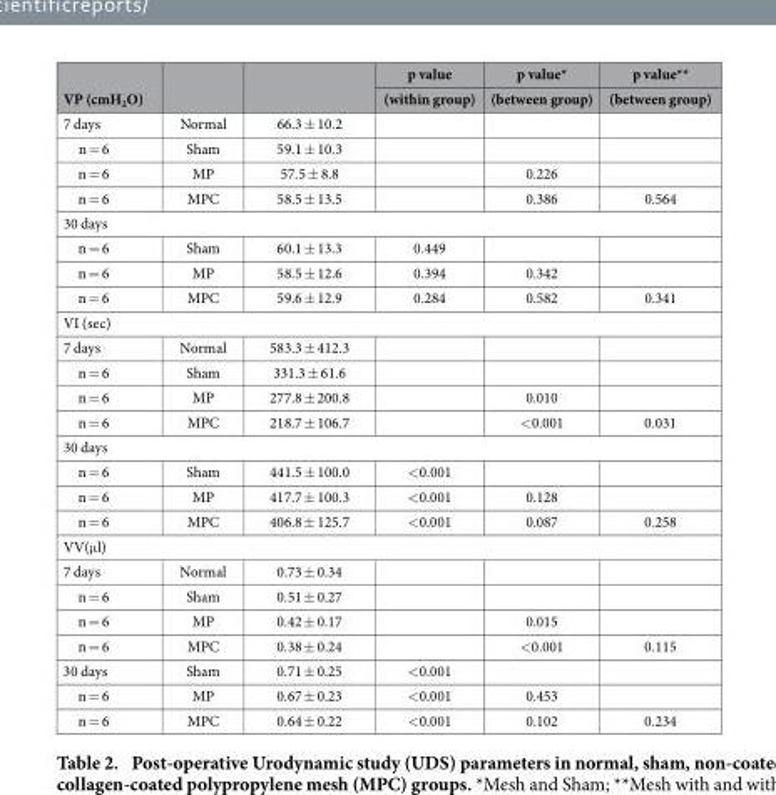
<table><thead><tr><td rowspan="2">VP (cmH<sub>2</sub>O)</td><td rowspan="2"></td><td rowspan="2"></td><td rowspan="2">p value (within group)</td><td rowspan="2">p value* (between group)</td><td rowspan="2">p value** (between group)</td></tr><tr></tr></thead><tbody><tr><td>7 days</td><td>Normal</td><td>66.3 ± 10.2</td><td></td><td></td><td></td></tr><tr><td>n = 6</td><td>Sham</td><td>59.1 ± 10.3</td><td></td><td></td><td></td></tr><tr><td>n = 6</td><td>MP</td><td>57.5 ± 8.8</td><td></td><td>0.226</td><td></td></tr><tr><td>n = 6</td><td>MPC</td><td>58.5 ± 13.5</td><td></td><td>0.386</td><td>0.564</td></tr><tr><td colspan="6">30 days</td></tr><tr><td>n = 6</td><td>Sham</td><td>60.1 ± 13.3</td><td>0.449</td><td></td><td></td></tr><tr><td>n = 6</td><td>MP</td><td>58.5 ± 12.6</td><td>0.394</td><td>0.342</td><td></td></tr><tr><td>n = 6</td><td>MPC</td><td>59.6 ± 12.9</td><td>0.284</td><td>0.582</td><td>0.341</td></tr><tr><td colspan="6">VI (sec)</td></tr><tr><td>7 days</td><td>Normal</td><td>583.3 ± 412.3</td><td></td><td></td><td></td></tr><tr><td>n = 6</td><td>Sham</td><td>331.3 ± 61.6</td><td></td><td></td><td></td></tr><tr><td>n = 6</td><td>MP</td><td>277.8 ± 200.8</td><td></td><td>0.010</td><td></td></tr><tr><td>n = 6</td><td>MPC</td><td>218.7 ± 106.7</td><td></td><td>&lt; 0.001</td><td>0.031</td></tr><tr><td colspan="6">30 days</td></tr><tr><td>n = 6</td><td>Sham</td><td>441.5 ± 100.0</td><td>&lt; 0.001</td><td></td><td></td></tr><tr><td>n = 6</td><td>MP</td><td>417.7 ± 100.3</td><td>&lt; 0.001</td><td>0.128</td><td></td></tr><tr><td>n = 6</td><td>MPC</td><td>406.8 ± 125.7</td><td>&lt; 0.001</td><td>0.087</td><td>0.258</td></tr><tr><td colspan="6">VV(μ l)</td></tr><tr><td>7 days</td><td>Normal</td><td>0.73 ± 0.34</td><td></td><td></td><td></td></tr><tr><td>n = 6</td><td>Sham</td><td>0.51 ± 0.27</td><td></td><td></td><td></td></tr><tr><td>n = 6</td><td>MP</td><td>0.42 ± 0.17</td><td></td><td>0.015</td><td></td></tr><tr><td>n = 6</td><td>MPC</td><td>0.38 ± 0.24</td><td></td><td>&lt; 0.001</td><td>0.115</td></tr><tr><td>30 days</td><td>Sham</td><td>0.71 ± 0.25</td><td>&lt; 0.001</td><td></td><td></td></tr><tr><td>n = 6</td><td>MP</td><td>0.67 ± 0.23</td><td>&lt; 0.001</td><td>0.453</td><td></td></tr><tr><td>n = 6</td><td>MPC</td><td>0.64 ± 0.22</td><td>&lt; 0.001</td><td>0.102</td><td>0.234</td></tr></tbody></table>